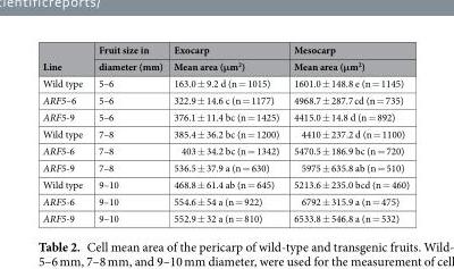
<table><thead><tr><td rowspan="2">Line</td><td rowspan="2">Fruit size in diameter (mm)</td><td rowspan="2">Exocarp Mean area (μm<sup>2</sup>)</td><td rowspan="2">Mesocarp Mean area (μm<sup>2</sup>)</td></tr><tr></tr></thead><tbody><tr><td>Wild type</td><td>5–6</td><td>163.0 ± 9.2 d (n = 1015)</td><td>1601.0 ± 148.8 e (n = 1145)</td></tr><tr><td>ARF5–6</td><td>5–6</td><td>322.9 ± 14.6 c (n = 1177)</td><td>4968.7 ± 287.7 cd (n = 735)</td></tr><tr><td>ARF5-9</td><td>5–6</td><td>376.1 ± 11.4 bc (n = 1425)</td><td>4415.0 ± 14.8 d (n = 892)</td></tr><tr><td>Wild type</td><td>7–8</td><td>385.4 ± 36.2 bc (n = 1200)</td><td>4410 ± 237.2 d (n = 1100)</td></tr><tr><td>ARF5-6</td><td>7–8</td><td>403 ± 34.2 bc (n = 1342)</td><td>5470.5 ± 186.9 bc (n = 720)</td></tr><tr><td>ARF5-9</td><td>7–8</td><td>536.5 ± 37.9 a (n = 630)</td><td>5975 ± 635.8 ab (n = 510)</td></tr><tr><td>Wild type</td><td>9–10</td><td>468.8 ± 61.4 ab (n = 645)</td><td>5213.6 ± 235.0 bcd (n = 460)</td></tr><tr><td>ARF5-6</td><td>9–10</td><td>554.6 ± 54 a (n = 922)</td><td>6792 ± 315.9 a (n = 475)</td></tr><tr><td>ARF5-9</td><td>9–10</td><td>552.9 ± 32 a (n = 810)</td><td>6533.8 ± 546.8 a (n = 532)</td></tr></tbody></table>